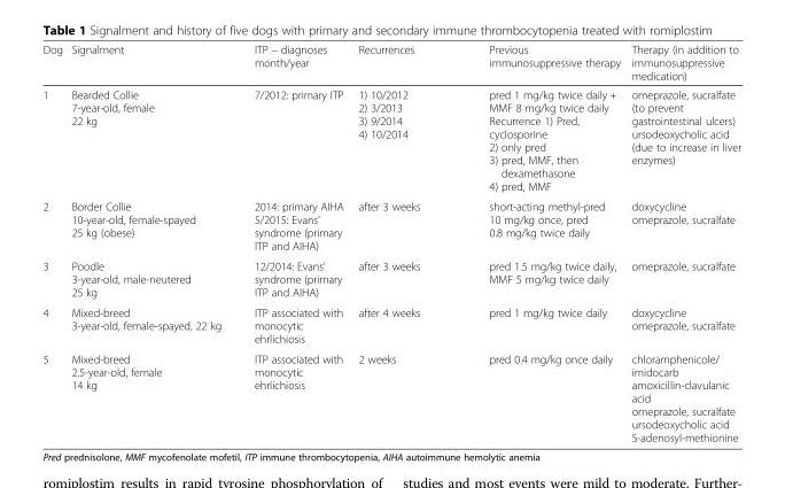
<table><thead><tr><td>Dog</td><td>Signalment</td><td>ITP – diagnoses month/year</td><td>Recurrences</td><td>Previous immunosuppressive therapy</td><td>Therapy (in addition to immunosuppressive medication)</td></tr></thead><tbody><tr><td>1</td><td>Bearded Collie 7-year-old, female 22 kg</td><td>7/2012: primary ITP</td><td>1) 10/2012 2) 3/2013 3) 9/2014 4) 10/2014</td><td>pred 1 mg/kg twice daily + MMF 8 mg/kg twice daily Recurrence 1) Pred, cyclosporine 2) only pred 3) pred, MMF, then dexamethasone 4) pred, MMF</td><td>omeprazole, sucralfate (to prevent gastrointestinal ulcers) ursodeoxycholic acid (due to increase in liver enzymes)</td></tr><tr><td>2</td><td>Border Collie 10-year-old, female-spayed 25 kg (obese)</td><td>2014: primary AIHA 5/2015: Evans’ syndrome (primary ITP and AIHA)</td><td>after 3 weeks</td><td>short-acting methyl-pred 10 mg/kg once, pred 0.8 mg/kg twice daily</td><td>doxycycline omeprazole, sucralfate</td></tr><tr><td>3</td><td>Poodle 3-year-old, male-neutered 25 kg</td><td>12/2014: Evans’ syndrome (primary ITP and AIHA)</td><td>after 3 weeks</td><td>pred 1.5 mg/kg twice daily, MMF 5 mg/kg twice daily</td><td>omeprazole, sucralfate</td></tr><tr><td>4</td><td>Mixed-breed 3-year-old, female-spayed, 22 kg</td><td>ITP associated with monocytic ehrlichiosis</td><td>after 4 weeks</td><td>pred 1 mg/kg twice daily</td><td>doxycycline omeprazole, sucralfate</td></tr><tr><td>5</td><td>Mixed-breed 2.5-year-old, female 14 kg</td><td>ITP associated with monocytic ehrlichiosis</td><td>2 weeks</td><td>pred 0.4 mg/kg once daily</td><td>chloramphenicole/ imidocarb amoxicillin-clavulanic acid omeprazole, sucralfate ursodeoxycholic acid S-adenosyl-methionine</td></tr></tbody></table>